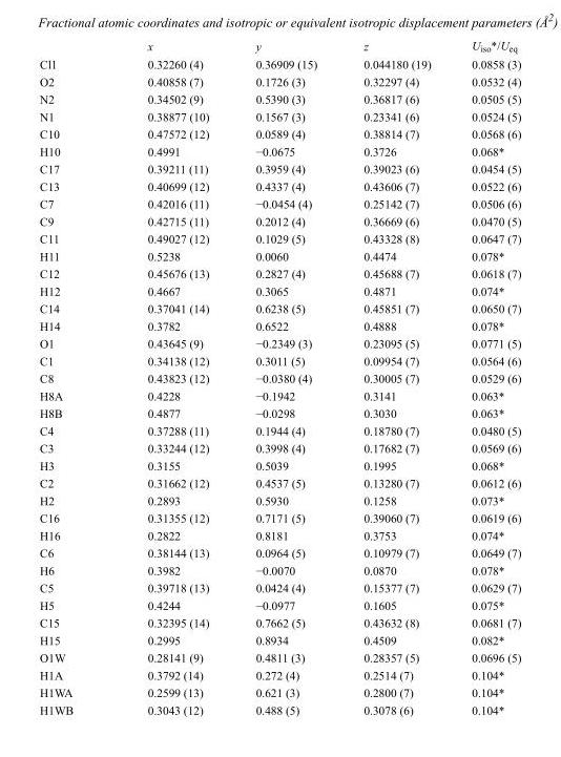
<table><thead><tr><td></td><td>x</td><td>y</td><td>z</td><td>U<sub>iso</sub>*/U<sub>eq</sub></td></tr></thead><tbody><tr><td>Cl1</td><td>0.32260 (4)</td><td>0.36909 (15)</td><td>0.044180 (19)</td><td>0.0858 (3)</td></tr><tr><td>O2</td><td>0.40858 (7)</td><td>0.1726 (3)</td><td>0.32297 (4)</td><td>0.0532 (4)</td></tr><tr><td>N2</td><td>0.34502 (9)</td><td>0.5390 (3)</td><td>0.36817 (6)</td><td>0.0505 (5)</td></tr><tr><td>N1</td><td>0.38877 (10)</td><td>0.1567 (3)</td><td>0.23341 (6)</td><td>0.0524 (5)</td></tr><tr><td>C10</td><td>0.47572 (12)</td><td>0.0589 (4)</td><td>0.38814 (7)</td><td>0.0568 (6)</td></tr><tr><td>H10</td><td>0.4991</td><td>−0.0675</td><td>0.3726</td><td>0.068*</td></tr><tr><td>C17</td><td>0.39211 (11)</td><td>0.3959 (4)</td><td>0.39023 (6)</td><td>0.0454 (5)</td></tr><tr><td>C13</td><td>0.40699 (12)</td><td>0.4337 (4)</td><td>0.43606 (7)</td><td>0.0522 (6)</td></tr><tr><td>C7</td><td>0.42016 (11)</td><td>−0.0454 (4)</td><td>0.25142 (7)</td><td>0.0506 (6)</td></tr><tr><td>C9</td><td>0.42715 (11)</td><td>0.2012 (4)</td><td>0.36669 (6)</td><td>0.0470 (5)</td></tr><tr><td>C11</td><td>0.49027 (12)</td><td>0.1029 (5)</td><td>0.43328 (8)</td><td>0.0647 (7)</td></tr><tr><td>H11</td><td>0.5238</td><td>0.0060</td><td>0.4474</td><td>0.078*</td></tr><tr><td>C12</td><td>0.45676 (13)</td><td>0.2827 (4)</td><td>0.45688 (7)</td><td>0.0618 (7)</td></tr><tr><td>H12</td><td>0.4667</td><td>0.3065</td><td>0.4871</td><td>0.074*</td></tr><tr><td>C14</td><td>0.37041 (14)</td><td>0.6238 (5)</td><td>0.45851 (7)</td><td>0.0650 (7)</td></tr><tr><td>H14</td><td>0.3782</td><td>0.6522</td><td>0.4888</td><td>0.078*</td></tr><tr><td>O1</td><td>0.43645 (9)</td><td>−0.2349 (3)</td><td>0.23095 (5)</td><td>0.0771 (5)</td></tr><tr><td>C1</td><td>0.34138 (12)</td><td>0.3011 (5)</td><td>0.09954 (7)</td><td>0.0564 (6)</td></tr><tr><td>C8</td><td>0.43823 (12)</td><td>−0.0380 (4)</td><td>0.30005 (7)</td><td>0.0529 (6)</td></tr><tr><td>H8A</td><td>0.4228</td><td>−0.1942</td><td>0.3141</td><td>0.063*</td></tr><tr><td>H8B</td><td>0.4877</td><td>−0.0298</td><td>0.3030</td><td>0.063*</td></tr><tr><td>C4</td><td>0.37288 (11)</td><td>0.1944 (4)</td><td>0.18780 (7)</td><td>0.0480 (5)</td></tr><tr><td>C3</td><td>0.33244 (12)</td><td>0.3998 (4)</td><td>0.17682 (7)</td><td>0.0569 (6)</td></tr><tr><td>H3</td><td>0.3155</td><td>0.5039</td><td>0.1995</td><td>0.068*</td></tr><tr><td>C2</td><td>0.31662 (12)</td><td>0.4537 (5)</td><td>0.13280 (7)</td><td>0.0612 (6)</td></tr><tr><td>H2</td><td>0.2893</td><td>0.5930</td><td>0.1258</td><td>0.073*</td></tr><tr><td>C16</td><td>0.31355 (12)</td><td>0.7171 (5)</td><td>0.39060 (7)</td><td>0.0619 (6)</td></tr><tr><td>H16</td><td>0.2822</td><td>0.8181</td><td>0.3753</td><td>0.074*</td></tr><tr><td>C6</td><td>0.38144 (13)</td><td>0.0964 (5)</td><td>0.10979 (7)</td><td>0.0649 (7)</td></tr><tr><td>H6</td><td>0.3982</td><td>−0.0070</td><td>0.0870</td><td>0.078*</td></tr><tr><td>C5</td><td>0.39718 (13)</td><td>0.0424 (4)</td><td>0.15377 (7)</td><td>0.0629 (7)</td></tr><tr><td>H5</td><td>0.4244</td><td>−0.0977</td><td>0.1605</td><td>0.075*</td></tr><tr><td>C15</td><td>0.32395 (14)</td><td>0.7662 (5)</td><td>0.43632 (8)</td><td>0.0681 (7)</td></tr><tr><td>H15</td><td>0.2995</td><td>0.8934</td><td>0.4509</td><td>0.082*</td></tr><tr><td>O1W</td><td>0.28141 (9)</td><td>0.4811 (3)</td><td>0.28357 (5)</td><td>0.0696 (5)</td></tr><tr><td>H1A</td><td>0.3792 (14)</td><td>0.272 (4)</td><td>0.2514 (7)</td><td>0.104*</td></tr><tr><td>H1WA</td><td>0.2599 (13)</td><td>0.621 (3)</td><td>0.2800 (7)</td><td>0.104*</td></tr><tr><td>H1WB</td><td>0.3043 (12)</td><td>0.488 (5)</td><td>0.3078 (6)</td><td>0.104*</td></tr></tbody></table>